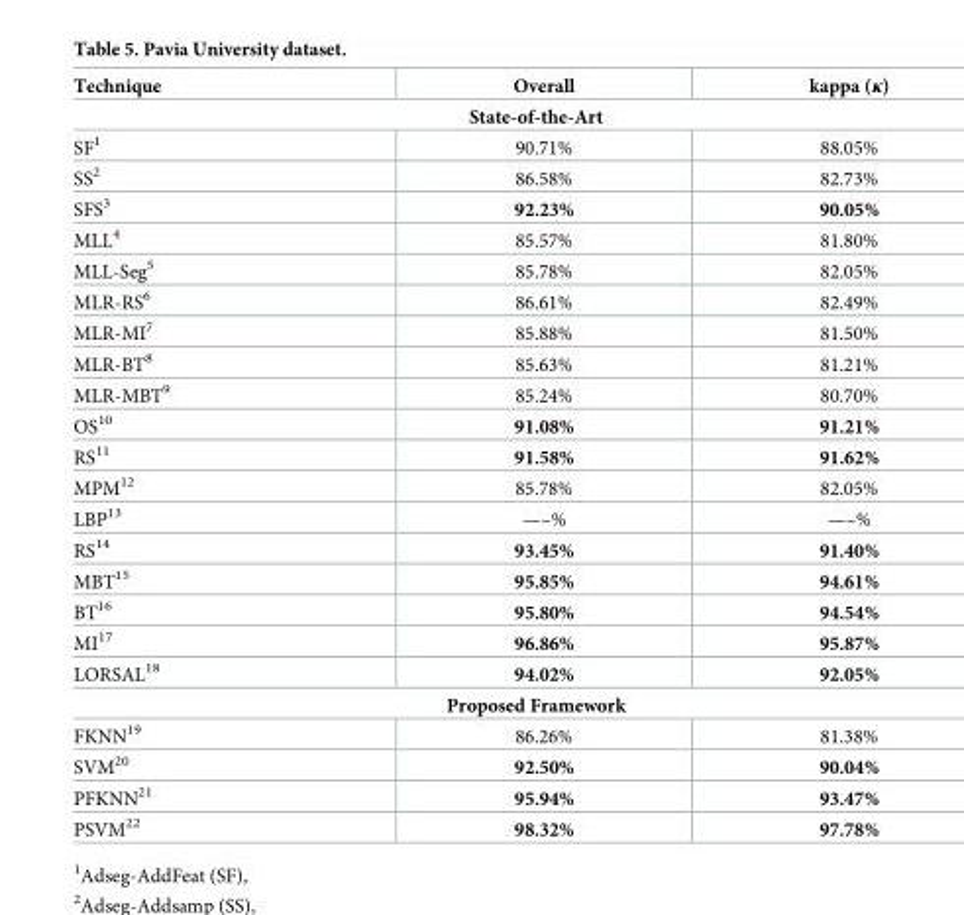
<table><thead><tr><td>Technique</td><td>Overall</td><td>kappa (κ)</td></tr></thead><tbody><tr><td colspan="3">State-of-the-Art</td></tr><tr><td>SF<sup>1</sup></td><td>90.71%</td><td>88.05%</td></tr><tr><td>SS<sup>2</sup></td><td>86.58%</td><td>82.73%</td></tr><tr><td>SFS<sup>3</sup></td><td>92.23%</td><td>90.05%</td></tr><tr><td>MLL<sup>4</sup></td><td>85.57%</td><td>81.80%</td></tr><tr><td>MLL-Seg<sup>5</sup></td><td>85.78%</td><td>82.05%</td></tr><tr><td>MLR-RS<sup>6</sup></td><td>86.61%</td><td>82.49%</td></tr><tr><td>MLR-MI<sup>7</sup></td><td>85.88%</td><td>81.50%</td></tr><tr><td>MLR-BT<sup>8</sup></td><td>85.63%</td><td>81.21%</td></tr><tr><td>MLR-MBT<sup>9</sup></td><td>85.24%</td><td>80.70%</td></tr><tr><td>OS<sup>10</sup></td><td>91.08%</td><td>91.21%</td></tr><tr><td>RS<sup>11</sup></td><td>91.58%</td><td>91.62%</td></tr><tr><td>MPM<sup>12</sup></td><td>85.78%</td><td>82.05%</td></tr><tr><td>LBP<sup>13</sup></td><td>—–%</td><td>—–%</td></tr><tr><td>RS<sup>14</sup></td><td>93.45%</td><td>91.40%</td></tr><tr><td>MBT<sup>15</sup></td><td>95.85%</td><td>94.61%</td></tr><tr><td>BT<sup>16</sup></td><td>95.80%</td><td>94.54%</td></tr><tr><td>MI<sup>17</sup></td><td>96.86%</td><td>95.87%</td></tr><tr><td>LORSAL<sup>18</sup></td><td>94.02%</td><td>92.05%</td></tr><tr><td colspan="3">Proposed Framework</td></tr><tr><td>FKNN<sup>19</sup></td><td>86.26%</td><td>81.38%</td></tr><tr><td>SVM<sup>20</sup></td><td>92.50%</td><td>90.04%</td></tr><tr><td>PFKNN<sup>21</sup></td><td>95.94%</td><td>93.47%</td></tr><tr><td>PSVM<sup>22</sup></td><td>98.32%</td><td>97.78%</td></tr></tbody></table>